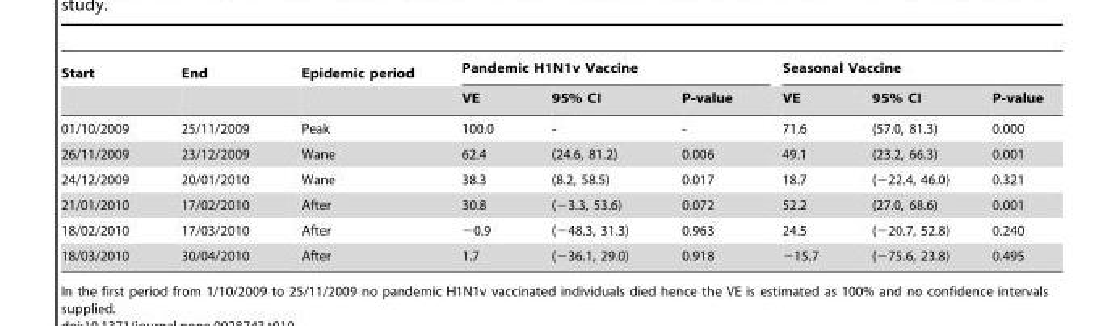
<table><thead><tr><td rowspan="2">Start</td><td rowspan="2">End</td><td rowspan="2">Epidemic period</td><td colspan="3">Pandemic H1N1v Vaccine</td><td colspan="3">Seasonal Vaccine</td></tr><tr><td>VE</td><td>95% CI</td><td>P-value</td><td>VE</td><td>95% CI</td><td>P-value</td></tr></thead><tbody><tr><td>01/10/2009</td><td>25/11/2009</td><td>Peak</td><td>100.0</td><td>-</td><td>-</td><td>71.6</td><td>(57.0, 81.3)</td><td>0.000</td></tr><tr><td>26/11/2009</td><td>23/12/2009</td><td>Wane</td><td>62.4</td><td>(24.6, 81.2)</td><td>0.006</td><td>49.1</td><td>(23.2, 66.3)</td><td>0.001</td></tr><tr><td>24/12/2009</td><td>20/01/2010</td><td>Wane</td><td>38.3</td><td>(8.2, 58.5)</td><td>0.017</td><td>18.7</td><td>(−22.4, 46.0)</td><td>0.321</td></tr><tr><td>21/01/2010</td><td>17/02/2010</td><td>After</td><td>30.8</td><td>(−3.3, 53.6)</td><td>0.072</td><td>52.2</td><td>(27.0, 68.6)</td><td>0.001</td></tr><tr><td>18/02/2010</td><td>17/03/2010</td><td>After</td><td>−0.9</td><td>(−48.3, 31.3)</td><td>0.963</td><td>24.5</td><td>(−20.7, 52.8)</td><td>0.240</td></tr><tr><td>18/03/2010</td><td>30/04/2010</td><td>After</td><td>1.7</td><td>(−36.1, 29.0)</td><td>0.918</td><td>−15.7</td><td>(−75.6, 23.8)</td><td>0.495</td></tr></tbody></table>